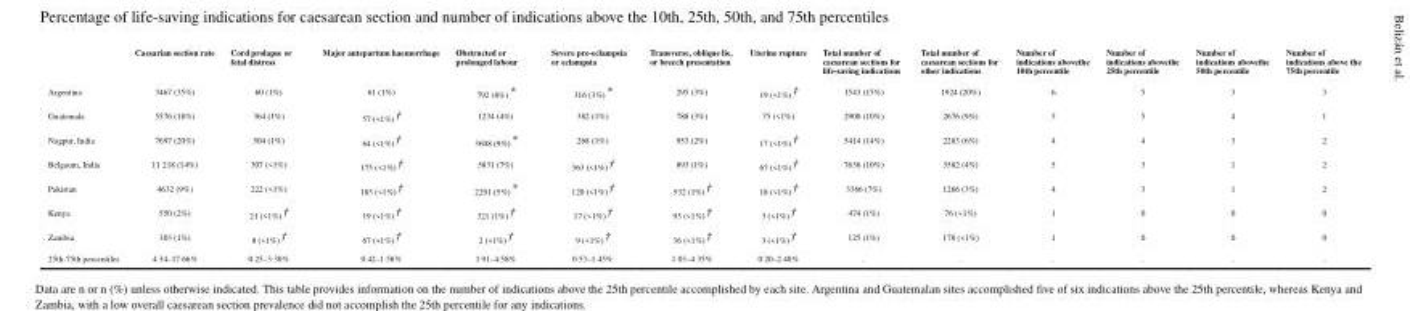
<table><thead><tr><td></td><td>Caesarian section rate</td><td>Cord prolapse or fetal distress</td><td>Major antepartum haemorrhage</td><td>Obstructed or prolonged labour</td><td>Severe pre-eclampsia or eclampsia</td><td>Transverse, oblique lie, or breech presentation</td><td>Uterine rupture</td><td>Total number of caesarean sections for life-saving indications</td><td>Total number of caesarean sections for other indications</td><td>Number of indications abovethe 10th percentile</td><td>Number of indications abovethe 25th percentile</td><td>Number of indications abovethe 50th percentile</td><td>Number of indications above the 75th percentile</td></tr></thead><tbody><tr><td>Argentina</td><td>3467 (35%)</td><td>60 (1%)</td><td>61 (1%)</td><td>792 (8%)*</td><td>316 (3%)*</td><td>295 (3%)</td><td>19 (&lt;1%)†</td><td>1543 (15%)</td><td>1924 (20%)</td><td>6</td><td>5</td><td>3</td><td>3</td></tr><tr><td>Guatemala</td><td>5576 (18%)</td><td>364 (1%)</td><td>57 (&lt;1%)†</td><td>1234 (4%)</td><td>382 (1%)</td><td>788 (3%)</td><td>75 (&lt;1%)</td><td>2900 (10%)</td><td>2676 (9%)</td><td>5</td><td>5</td><td>4</td><td>1</td></tr><tr><td>Nagpur, India</td><td>7697 (20%)</td><td>504 (1%)</td><td>64 (&lt;1%)†</td><td>3608 (9%)*</td><td>268 (1%)</td><td>953 (2%)</td><td>17 (&lt;1%)†</td><td>5414 (14%)</td><td>2283 (6%)</td><td>4</td><td>4</td><td>3</td><td>2</td></tr><tr><td>Belgaum, India</td><td>11 218 (14%)</td><td>307 (&lt;1%)</td><td>175 (&lt;1%)†</td><td>5831 (7%)</td><td>363 (&lt;1%)†</td><td>893 (1%)</td><td>67 (&lt;1%)†</td><td>7636 (10%)</td><td>3582 (4%)</td><td>5</td><td>3</td><td>1</td><td>2</td></tr><tr><td>Pakistan</td><td>4632 (9%)</td><td>222 (&lt;1%)</td><td>183 (&lt;1%)†</td><td>2291 (5%)*</td><td>120 (&lt;1%)†</td><td>532 (1%)†</td><td>18 (&lt;1%)†</td><td>3366 (7%)</td><td>1266 (3%)</td><td>4</td><td>3</td><td>1</td><td>2</td></tr><tr><td>Kenya</td><td>550 (2%)</td><td>21 (&lt;1%)†</td><td>19 (&lt;1%)†</td><td>321 (1%)†</td><td>17 (&lt;1%)†</td><td>93 (&lt;1%)†</td><td>3 (&lt;1%)†</td><td>474 (1%)</td><td>76 (&lt;1%)</td><td>1</td><td>0</td><td>0</td><td>0</td></tr><tr><td>Zambia</td><td>303 (1%)</td><td>8 (&lt;1%)†</td><td>67 (&lt;1%)†</td><td>2 (&lt;1%)†</td><td>9 (&lt;1%)†</td><td>36 (&lt;1%)†</td><td>3 (&lt;1%)†</td><td>125 (1%)</td><td>178 (&lt;1%)</td><td>1</td><td>0</td><td>0</td><td>0</td></tr><tr><td>25th-75th percentiles</td><td>4·34–17·66%</td><td>0·25–3·30%</td><td>0·42–1·58%</td><td>1·91–4·58%</td><td>0·53–1·45%</td><td>1·03–4·35%</td><td>0·20–2·40%</td><td>..</td><td>..</td><td>..</td><td>..</td><td>..</td><td>..</td></tr></tbody></table>